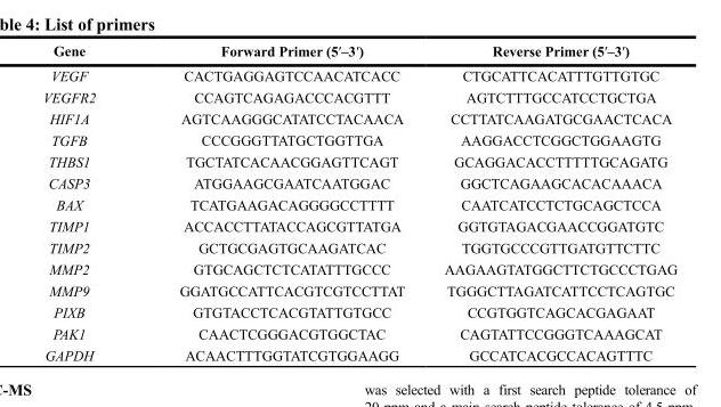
<table><thead><tr><td>Gene</td><td>Forward Primer (5′–3′)</td><td>Reverse Primer (5′–3′)</td></tr></thead><tbody><tr><td>VEGF</td><td>CACTGAGGAGTCCAACATCACC</td><td>CTGCATTCACATTTGTTGTGC</td></tr><tr><td>VEGFR2</td><td>CCAGTCAGAGACCCACGTTT</td><td>AGTCTTTGCCATCCTGCTGA</td></tr><tr><td>HIF1A</td><td>AGTCAAGGGCATATCCTACAACA</td><td>CCTTATCAAGATGCGAACTCACA</td></tr><tr><td>TGFB</td><td>CCCGGGTTATGCTGGTTGA</td><td>AAGGACCTCGGCTGGAAGTG</td></tr><tr><td>THBS1</td><td>TGCTATCACAACGGAGTTCAGT</td><td>GCAGGACACCTTTTTGCAGATG</td></tr><tr><td>CASP3</td><td>ATGGAAGCGAATCAATGGAC</td><td>GGCTCAGAAGCACACAAACA</td></tr><tr><td>BAX</td><td>TCATGAAGACAGGGGCCTTTT</td><td>CAATCATCCTCTGCAGCTCCA</td></tr><tr><td>TIMP1</td><td>ACCACCTTATACCAGCGTTATGA</td><td>GGTGTAGACGAACCGGATGTC</td></tr><tr><td>TIMP2</td><td>GCTGCGAGTGCAAGATCAC</td><td>TGGTGCCCGTTGATGTTCTTC</td></tr><tr><td>MMP2</td><td>GTGCAGCTCTCATATTTGCCC</td><td>AAGAAGTATGGCTTCTGCCCTGAG</td></tr><tr><td>MMP9</td><td>GGATGCCATTCACGTCGTCCTTAT</td><td>TGGGCTTAGATCATTCCTCAGTGC</td></tr><tr><td>PIXB</td><td>GTGTACCTCACGTATTGTGCC</td><td>CCGTGGTCAGCACGAGAAT</td></tr><tr><td>PAK1</td><td>CAACTCGGGACGTGGCTAC</td><td>CAGTATTCCGGGTCAAAGCAT</td></tr><tr><td>GAPDH</td><td>ACAACTTTGGTATCGTGGAAGG</td><td>GCCATCACGCCACAGTTTC</td></tr></tbody></table>